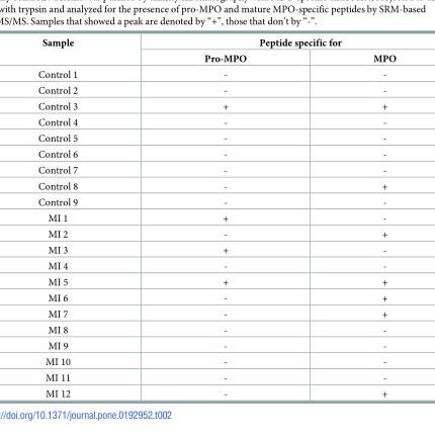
<table><thead><tr><td rowspan="2">Sample</td><td colspan="2">Peptide specific for</td></tr><tr><td>Pro-MPO</td><td>MPO</td></tr></thead><tbody><tr><td>Control 1</td><td>-</td><td>-</td></tr><tr><td>Control 2</td><td>-</td><td>-</td></tr><tr><td>Control 3</td><td>+</td><td>+</td></tr><tr><td>Control 4</td><td>-</td><td>-</td></tr><tr><td>Control 5</td><td>-</td><td>-</td></tr><tr><td>Control 6</td><td>-</td><td>-</td></tr><tr><td>Control 7</td><td>-</td><td>-</td></tr><tr><td>Control 8</td><td>-</td><td>+</td></tr><tr><td>Control 9</td><td>-</td><td>-</td></tr><tr><td>MI 1</td><td>+</td><td>-</td></tr><tr><td>MI 2</td><td>-</td><td>+</td></tr><tr><td>MI 3</td><td>+</td><td>-</td></tr><tr><td>MI 4</td><td>-</td><td>-</td></tr><tr><td>MI 5</td><td>+</td><td>+</td></tr><tr><td>MI 6</td><td>-</td><td>+</td></tr><tr><td>MI 7</td><td>-</td><td>+</td></tr><tr><td>MI 8</td><td>-</td><td>-</td></tr><tr><td>MI 9</td><td>-</td><td>-</td></tr><tr><td>MI 10</td><td>-</td><td>-</td></tr><tr><td>MI 11</td><td>-</td><td>-</td></tr><tr><td>MI 12</td><td>-</td><td>+</td></tr></tbody></table>